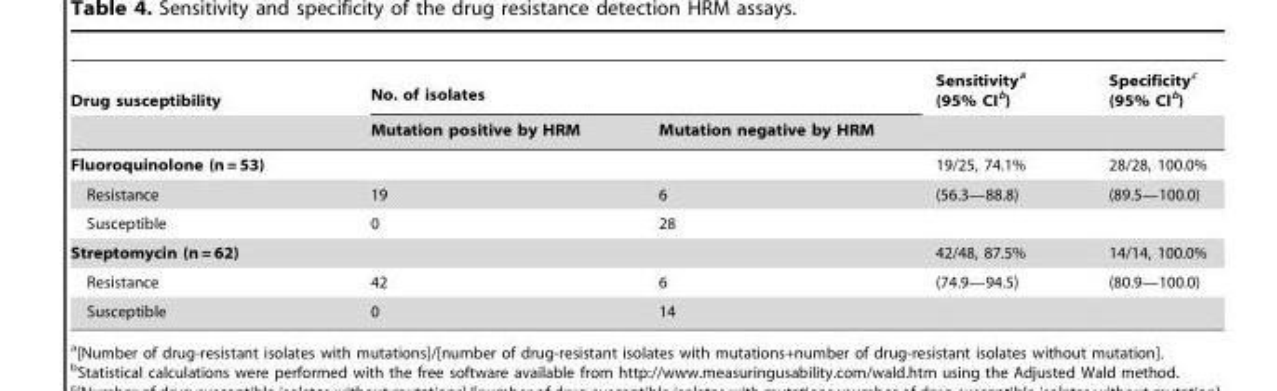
<table><thead><tr><td rowspan="2">Drug susceptibility</td><td colspan="2">No. of isolates</td><td rowspan="2">Sensitivity<sup>a</sup> (95% CI<sup>b</sup>)</td><td rowspan="2">Specificity<sup>c</sup> (95% CI<sup>b</sup>)</td></tr><tr><td>Mutation positive by HRM</td><td>Mutation negative by HRM</td></tr></thead><tbody><tr><td>Fluoroquinolone (n = 53)</td><td></td><td></td><td>19/25, 74.1%</td><td>28/28, 100.0%</td></tr><tr><td>Resistance</td><td>19</td><td>6</td><td>(56.3—88.8)</td><td>(89.5—100.0)</td></tr><tr><td>Susceptible</td><td>0</td><td>28</td><td></td><td></td></tr><tr><td>Streptomycin (n = 62)</td><td></td><td></td><td>42/48, 87.5%</td><td>14/14, 100.0%</td></tr><tr><td>Resistance</td><td>42</td><td>6</td><td>(74.9—94.5)</td><td>(80.9—100.0)</td></tr><tr><td>Susceptible</td><td>0</td><td>14</td><td></td><td></td></tr></tbody></table>